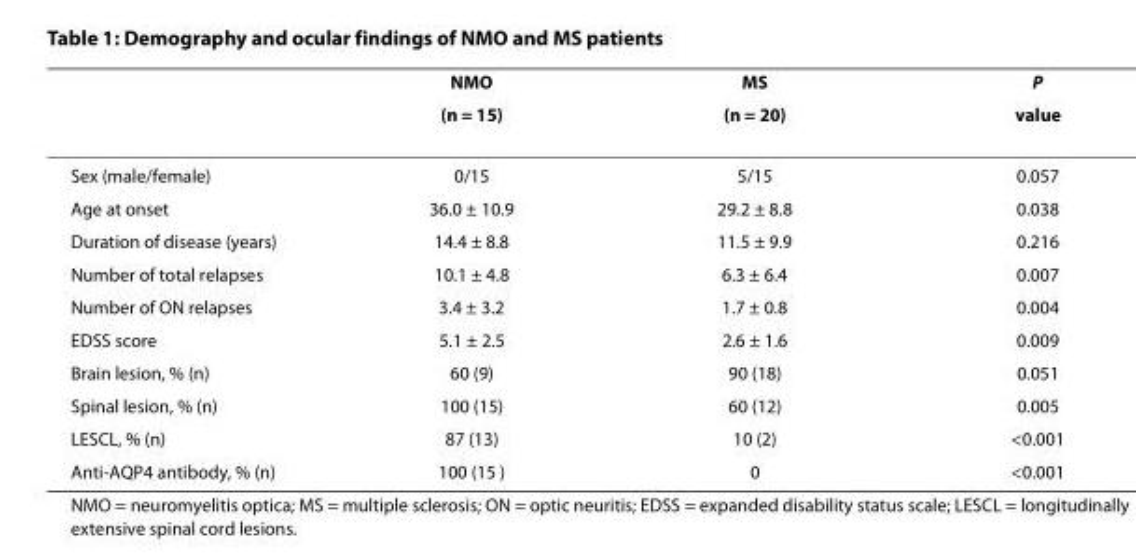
<table><thead><tr><td rowspan="2"></td><td rowspan="2">NMO (n = 15)</td><td rowspan="2">MS (n = 20)</td><td rowspan="2">P value</td></tr><tr></tr></thead><tbody><tr><td>Sex (male/female)</td><td>0/15</td><td>5/15</td><td>0.057</td></tr><tr><td>Age at onset</td><td>36.0 ± 10.9</td><td>29.2 ± 8.8</td><td>0.038</td></tr><tr><td>Duration of disease (years)</td><td>14.4 ± 8.8</td><td>11.5 ± 9.9</td><td>0.216</td></tr><tr><td>Number of total relapses</td><td>10.1 ± 4.8</td><td>6.3 ± 6.4</td><td>0.007</td></tr><tr><td>Number of ON relapses</td><td>3.4 ± 3.2</td><td>1.7 ± 0.8</td><td>0.004</td></tr><tr><td>EDSS score</td><td>5.1 ± 2.5</td><td>2.6 ± 1.6</td><td>0.009</td></tr><tr><td>Brain lesion, % (n)</td><td>60 (9)</td><td>90 (18)</td><td>0.051</td></tr><tr><td>Spinal lesion, % (n)</td><td>100 (15)</td><td>60 (12)</td><td>0.005</td></tr><tr><td>LESCL, % (n)</td><td>87 (13)</td><td>10 (2)</td><td>&lt;0.001</td></tr><tr><td>Anti-AQP4 antibody, % (n)</td><td>100 (15 )</td><td>0</td><td>&lt;0.001</td></tr></tbody></table>